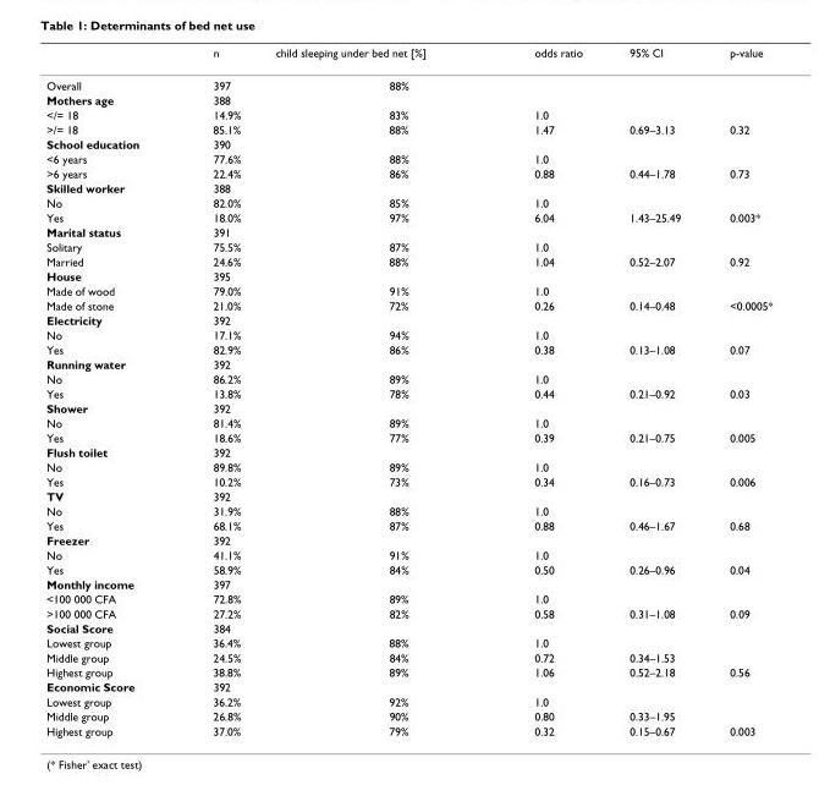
<table><thead><tr><td></td><td>n</td><td>child sleeping under bed net [%]</td><td>odds ratio</td><td>95% CI</td><td>p-value</td></tr></thead><tbody><tr><td>Overall</td><td>397</td><td>88%</td><td></td><td></td><td></td></tr><tr><td>Mothers age</td><td>388</td><td></td><td></td><td></td><td></td></tr><tr><td>&lt;/= 18</td><td>14.9%</td><td>83%</td><td>1.0</td><td></td><td></td></tr><tr><td>&gt;/= 18</td><td>85.1%</td><td>88%</td><td>1.47</td><td>0.69–3.13</td><td>0.32</td></tr><tr><td>School education</td><td>390</td><td></td><td></td><td></td><td></td></tr><tr><td>&lt;6 years</td><td>77.6%</td><td>88%</td><td>1.0</td><td></td><td></td></tr><tr><td>&gt;6 years</td><td>22.4%</td><td>86%</td><td>0.88</td><td>0.44–1.78</td><td>0.73</td></tr><tr><td>Skilled worker</td><td>388</td><td></td><td></td><td></td><td></td></tr><tr><td>No</td><td>82.0%</td><td>85%</td><td>1.0</td><td></td><td></td></tr><tr><td>Yes</td><td>18.0%</td><td>97%</td><td>6.04</td><td>1.43–25.49</td><td>0.003*</td></tr><tr><td>Marital status</td><td>391</td><td></td><td></td><td></td><td></td></tr><tr><td>Solitary</td><td>75.5%</td><td>87%</td><td>1.0</td><td></td><td></td></tr><tr><td>Married</td><td>24.6%</td><td>88%</td><td>1.04</td><td>0.52–2.07</td><td>0.92</td></tr><tr><td>House</td><td>395</td><td></td><td></td><td></td><td></td></tr><tr><td>Made of wood</td><td>79.0%</td><td>91%</td><td>1.0</td><td></td><td></td></tr><tr><td>Made of stone</td><td>21.0%</td><td>72%</td><td>0.26</td><td>0.14–0.48</td><td>&lt;0.0005*</td></tr><tr><td>Electricity</td><td>392</td><td></td><td></td><td></td><td></td></tr><tr><td>No</td><td>17.1%</td><td>94%</td><td>1.0</td><td></td><td></td></tr><tr><td>Yes</td><td>82.9%</td><td>86%</td><td>0.38</td><td>0.13–1.08</td><td>0.07</td></tr><tr><td>Running water</td><td>392</td><td></td><td></td><td></td><td></td></tr><tr><td>No</td><td>86.2%</td><td>89%</td><td>1.0</td><td></td><td></td></tr><tr><td>Yes</td><td>13.8%</td><td>78%</td><td>0.44</td><td>0.21–0.92</td><td>0.03</td></tr><tr><td>Shower</td><td>392</td><td></td><td></td><td></td><td></td></tr><tr><td>No</td><td>81.4%</td><td>89%</td><td>1.0</td><td></td><td></td></tr><tr><td>Yes</td><td>18.6%</td><td>77%</td><td>0.39</td><td>0.21–0.75</td><td>0.005</td></tr><tr><td>Flush toilet</td><td>392</td><td></td><td></td><td></td><td></td></tr><tr><td>No</td><td>89.8%</td><td>89%</td><td>1.0</td><td></td><td></td></tr><tr><td>Yes</td><td>10.2%</td><td>73%</td><td>0.34</td><td>0.16–0.73</td><td>0.006</td></tr><tr><td>TV</td><td>392</td><td></td><td></td><td></td><td></td></tr><tr><td>No</td><td>31.9%</td><td>88%</td><td>1.0</td><td></td><td></td></tr><tr><td>Yes</td><td>68.1%</td><td>87%</td><td>0.88</td><td>0.46–1.67</td><td>0.68</td></tr><tr><td>Freezer</td><td>392</td><td></td><td></td><td></td><td></td></tr><tr><td>No</td><td>41.1%</td><td>91%</td><td>1.0</td><td></td><td></td></tr><tr><td>Yes</td><td>58.9%</td><td>84%</td><td>0.50</td><td>0.26–0.96</td><td>0.04</td></tr><tr><td>Monthly income</td><td>397</td><td></td><td></td><td></td><td></td></tr><tr><td>&lt;100 000 CFA</td><td>72.8%</td><td>89%</td><td>1.0</td><td></td><td></td></tr><tr><td>&gt;100 000 CFA</td><td>27.2%</td><td>82%</td><td>0.58</td><td>0.31–1.08</td><td>0.09</td></tr><tr><td>Social Score</td><td>384</td><td></td><td></td><td></td><td></td></tr><tr><td>Lowest group</td><td>36.4%</td><td>88%</td><td>1.0</td><td></td><td></td></tr><tr><td>Middle group</td><td>24.5%</td><td>84%</td><td>0.72</td><td>0.34–1.53</td><td></td></tr><tr><td>Highest group</td><td>38.8%</td><td>89%</td><td>1.06</td><td>0.52–2.18</td><td>0.56</td></tr><tr><td>Economic Score</td><td>392</td><td></td><td></td><td></td><td></td></tr><tr><td>Lowest group</td><td>36.2%</td><td>92%</td><td>1.0</td><td></td><td></td></tr><tr><td>Middle group</td><td>26.8%</td><td>90%</td><td>0.80</td><td>0.33–1.95</td><td></td></tr><tr><td>Highest group</td><td>37.0%</td><td>79%</td><td>0.32</td><td>0.15–0.67</td><td>0.003</td></tr></tbody></table>